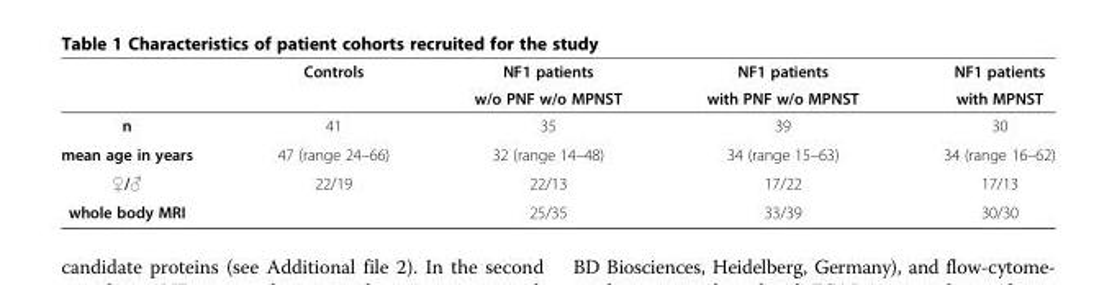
<table><thead><tr><td rowspan="2"></td><td rowspan="2">Controls</td><td rowspan="2">NF1 patients w/o PNF w/o MPNST</td><td rowspan="2">NF1 patients with PNF w/o MPNST</td><td rowspan="2">NF1 patients with MPNST</td></tr><tr></tr></thead><tbody><tr><td>n</td><td>41</td><td>35</td><td>39</td><td>30</td></tr><tr><td>mean age in years</td><td>47 (range 24–66)</td><td>32 (range 14–48)</td><td>34 (range 15–63)</td><td>34 (range 16–62)</td></tr><tr><td>♀/♂</td><td>22/19</td><td>22/13</td><td>17/22</td><td>17/13</td></tr><tr><td>whole body MRI</td><td></td><td>25/35</td><td>33/39</td><td>30/30</td></tr></tbody></table>